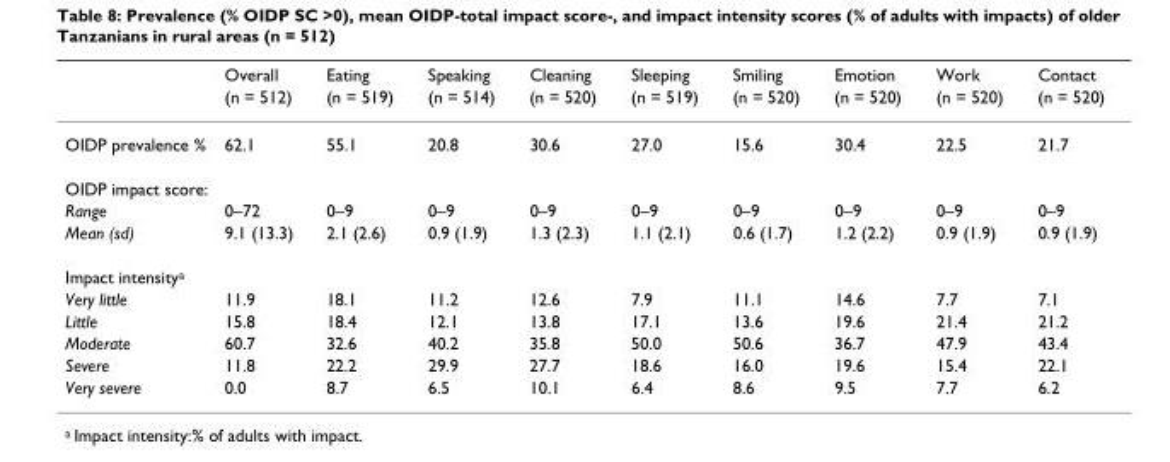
<table><thead><tr><td rowspan="2"></td><td rowspan="2">Overall (n = 512)</td><td rowspan="2">Eating (n = 519)</td><td rowspan="2">Speaking (n = 514)</td><td rowspan="2">Cleaning (n = 520)</td><td rowspan="2">Sleeping (n = 519)</td><td rowspan="2">Smiling (n = 520)</td><td rowspan="2">Emotion (n = 520)</td><td rowspan="2">Work (n = 520)</td><td rowspan="2">Contact (n = 520)</td></tr><tr></tr></thead><tbody><tr><td>OIDP prevalence %</td><td>62.1</td><td>55.1</td><td>20.8</td><td>30.6</td><td>27.0</td><td>15.6</td><td>30.4</td><td>22.5</td><td>21.7</td></tr><tr><td colspan="10">OIDP impact score:</td></tr><tr><td>Range</td><td>0–72</td><td>0–9</td><td>0–9</td><td>0–9</td><td>0–9</td><td>0–9</td><td>0–9</td><td>0–9</td><td>0–9</td></tr><tr><td>Mean (sd)</td><td>9.1 (13.3)</td><td>2.1 (2.6)</td><td>0.9 (1.9)</td><td>1.3 (2.3)</td><td>1.1 (2.1)</td><td>0.6 (1.7)</td><td>1.2 (2.2)</td><td>0.9 (1.9)</td><td>0.9 (1.9)</td></tr><tr><td colspan="10">Impact intensity<sup>a</sup></td></tr><tr><td>Very little</td><td>11.9</td><td>18.1</td><td>11.2</td><td>12.6</td><td>7.9</td><td>11.1</td><td>14.6</td><td>7.7</td><td>7.1</td></tr><tr><td>Little</td><td>15.8</td><td>18.4</td><td>12.1</td><td>13.8</td><td>17.1</td><td>13.6</td><td>19.6</td><td>21.4</td><td>21.2</td></tr><tr><td>Moderate</td><td>60.7</td><td>32.6</td><td>40.2</td><td>35.8</td><td>50.0</td><td>50.6</td><td>36.7</td><td>47.9</td><td>43.4</td></tr><tr><td>Severe</td><td>11.8</td><td>22.2</td><td>29.9</td><td>27.7</td><td>18.6</td><td>16.0</td><td>19.6</td><td>15.4</td><td>22.1</td></tr><tr><td>Very severe</td><td>0.0</td><td>8.7</td><td>6.5</td><td>10.1</td><td>6.4</td><td>8.6</td><td>9.5</td><td>7.7</td><td>6.2</td></tr></tbody></table>